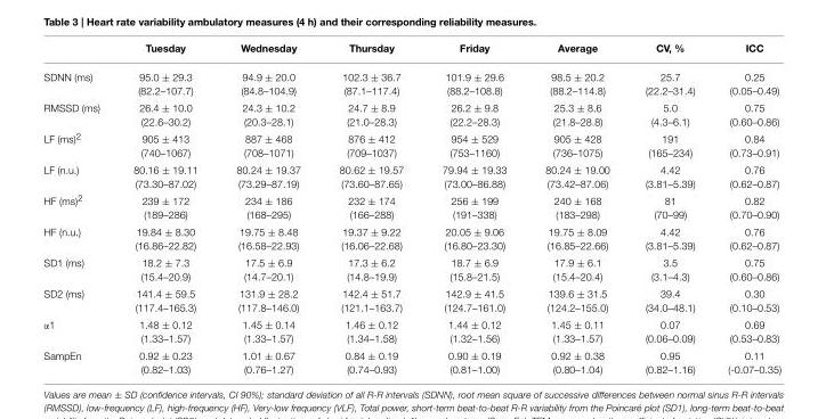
<table><thead><tr><td></td><td>Tuesday</td><td>Wednesday</td><td>Thursday</td><td>Friday</td><td>Average</td><td>CV, %</td><td>ICC</td></tr></thead><tbody><tr><td>SDNN (ms)</td><td>95.0 ± 29.3 (82.2–107.7)</td><td>94.9 ± 20.0 (84.8–104.9)</td><td>102.3 ± 36.7 (87.1–117.4)</td><td>101.9 ± 29.6 (88.2–108.8)</td><td>98.5 ± 20.2 (88.2–114.8)</td><td>25.7 (22.2–31.4)</td><td>0.25 (0.05–0.49)</td></tr><tr><td>RMSSD (ms)</td><td>26.4 ± 10.0 (22.6–30.2)</td><td>24.3 ± 10.2 (20.3–28.1)</td><td>24.7 ± 8.9 (21.0–28.3)</td><td>26.2 ± 9.8 (22.2–28.3)</td><td>25.3 ± 8.6 (21.8–28.8)</td><td>5.0 (4.3–6.1)</td><td>0.75 (0.60–0.86)</td></tr><tr><td>LF (ms)<sup>2</sup></td><td>905 ± 413 (740–1067)</td><td>887 ± 468 (708–1071)</td><td>876 ± 412 (709–1037)</td><td>954 ± 529 (753–1160)</td><td>905 ± 428 (736–1075)</td><td>191 (165–234)</td><td>0.84 (0.73–0.91)</td></tr><tr><td>LF (n.u.)</td><td>80.16 ± 19.11 (73.30–87.02)</td><td>80.24 ± 19.37 (73.29–87.19)</td><td>80.62 ± 19.57 (73.60–87.65)</td><td>79.94 ± 19.33 (73.00–86.88)</td><td>80.24 ± 19.00 (73.42–87.06)</td><td>4.42 (3.81–5.39)</td><td>0.76 (0.62–0.87)</td></tr><tr><td>HF (ms)<sup>2</sup></td><td>239 ± 172 (189–286)</td><td>234 ± 186 (168–295)</td><td>232 ± 174 (166–288)</td><td>256 ± 199 (191–338)</td><td>240 ± 168 (183–298)</td><td>81 (70–99)</td><td>0.82 (0.70–0.90)</td></tr><tr><td>HF (n.u.)</td><td>19.84 ± 8.30 (16.86–22.82)</td><td>19.75 ± 8.48 (16.58–22.93)</td><td>19.37 ± 9.22 (16.06–22.68)</td><td>20.05 ± 9.06 (16.80–23.30)</td><td>19.75 ± 8.09 (16.85–22.66)</td><td>4.42 (3.81–5.39)</td><td>0.76 (0.62–0.87)</td></tr><tr><td>SD1 (ms)</td><td>18.2 ± 7.3 (15.4–20.9)</td><td>17.5 ± 6.9 (14.7–20.1)</td><td>17.3 ± 6.2 (14.8–19.9)</td><td>18.7 ± 6.9 (15.8–21.5)</td><td>17.9 ± 6.1 (15.4–20.4)</td><td>3.5 (3.1–4.3)</td><td>0.75 (0.60–0.86)</td></tr><tr><td>SD2 (ms)</td><td>141.4 ± 59.5 (117.4–165.3)</td><td>131.9 ± 28.2 (117.8–146.0)</td><td>142.4 ± 51.7 (121.1–163.7)</td><td>142.9 ± 41.5 (124.7–161.0)</td><td>139.6 ± 31.5 (124.2–155.0)</td><td>39.4 (34.0–48.1)</td><td>0.30 (0.10–0.53)</td></tr><tr><td>α1</td><td>1.48 ± 0.12 (1.33–1.57)</td><td>1.45 ± 0.14 (1.33–1.57)</td><td>1.46 ± 0.12 (1.34–1.58)</td><td>1.44 ± 0.12 (1.32–1.56)</td><td>1.45 ± 0.11 (1.33–1.57)</td><td>0.07 (0.06–0.09)</td><td>0.69 (0.53–0.83)</td></tr><tr><td>SampEn</td><td>0.92 ± 0.23 (0.82–1.03)</td><td>1.01 ± 0.67 (0.76–1.27)</td><td>0.84 ± 0.19 (0.74–0.93)</td><td>0.90 ± 0.19 (0.81–1.00)</td><td>0.92 ± 0.38 (0.80–1.04)</td><td>0.95 (0.82–1.16)</td><td>0.11 (-0.07–0.35)</td></tr></tbody></table>